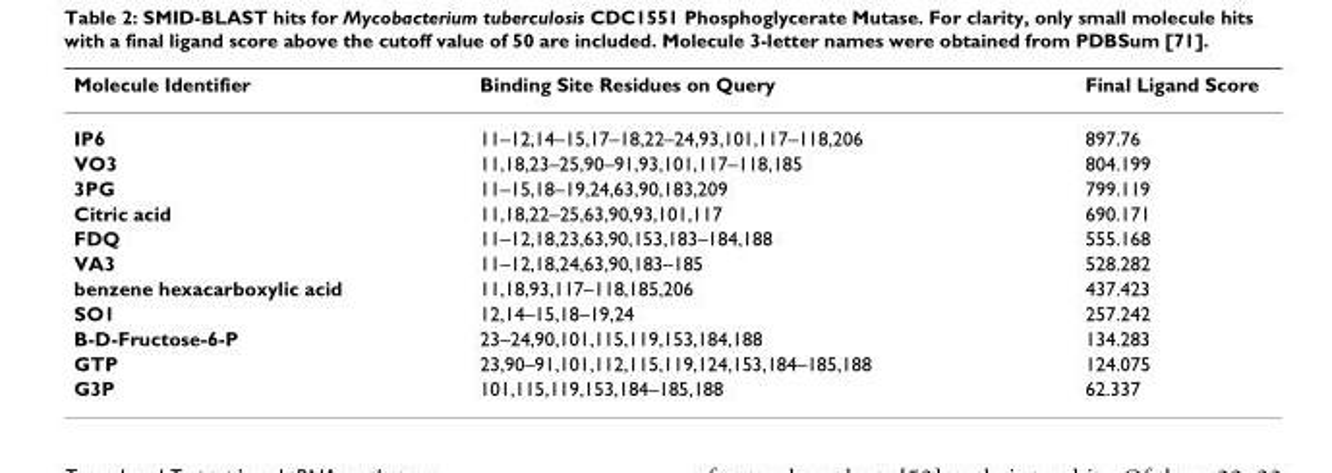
<table><thead><tr><td>Molecule Identifier</td><td>Binding Site Residues on Query</td><td>Final Ligand Score</td></tr></thead><tbody><tr><td>IP6</td><td>11–12,14–15,17–18,22–24,93,101,117–118,206</td><td>897.76</td></tr><tr><td>VO3</td><td>11,18,23–25,90–91,93,101,117–118,185</td><td>804.199</td></tr><tr><td>3PG</td><td>11–15,18–19,24,63,90,183,209</td><td>799.119</td></tr><tr><td>Citric acid</td><td>11,18,22–25,63,90,93,101,117</td><td>690.171</td></tr><tr><td>FDQ</td><td>11–12,18,23,63,90,153,183–184,188</td><td>555.168</td></tr><tr><td>VA3</td><td>11–12,18,24,63,90,183–185</td><td>528.282</td></tr><tr><td>benzene hexacarboxylic acid</td><td>11,18,93,117–118,185,206</td><td>437.423</td></tr><tr><td>SO1</td><td>12,14–15,18–19,24</td><td>257.242</td></tr><tr><td>B-D-Fructose-6-P</td><td>23–24,90,101,115,119,153,184,188</td><td>134.283</td></tr><tr><td>GTP</td><td>23,90–91,101,112,115,119,124,153,184–185,188</td><td>124.075</td></tr><tr><td>G3P</td><td>101,115,119,153,184–185,188</td><td>62.337</td></tr></tbody></table>